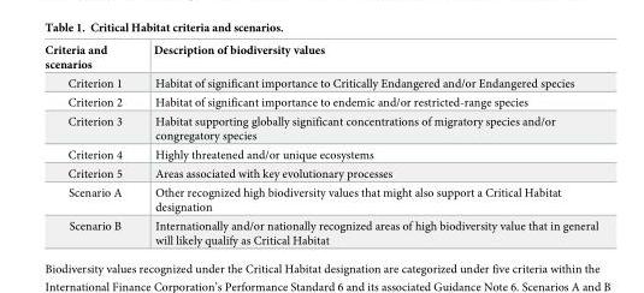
<table><thead><tr><td>Criteria and scenarios</td><td>Description of biodiversity values</td></tr></thead><tbody><tr><td>Criterion 1</td><td>Habitat of significant importance to Critically Endangered and/or Endangered species</td></tr><tr><td>Criterion 2</td><td>Habitat of significant importance to endemic and/or restricted-range species</td></tr><tr><td>Criterion 3</td><td>Habitat supporting globally significant concentrations of migratory species and/or congregatory species</td></tr><tr><td>Criterion 4</td><td>Highly threatened and/or unique ecosystems</td></tr><tr><td>Criterion 5</td><td>Areas associated with key evolutionary processes</td></tr><tr><td>Scenario A</td><td>Other recognized high biodiversity values that might also support a Critical Habitat designation</td></tr><tr><td>Scenario B</td><td>Internationally and/or nationally recognized areas of high biodiversity value that in general will likely qualify as Critical Habitat</td></tr></tbody></table>